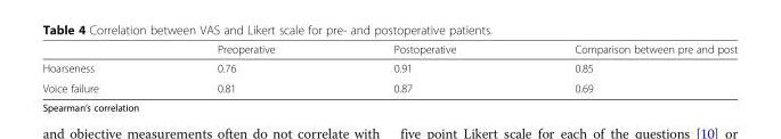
<table><thead><tr><td></td><td>Preoperative</td><td>Postoperative</td><td>Comparison between pre and post</td></tr></thead><tbody><tr><td>Hoarseness</td><td>0.76</td><td>0.91</td><td>0.85</td></tr><tr><td>Voice failure</td><td>0.81</td><td>0.87</td><td>0.69</td></tr></tbody></table>